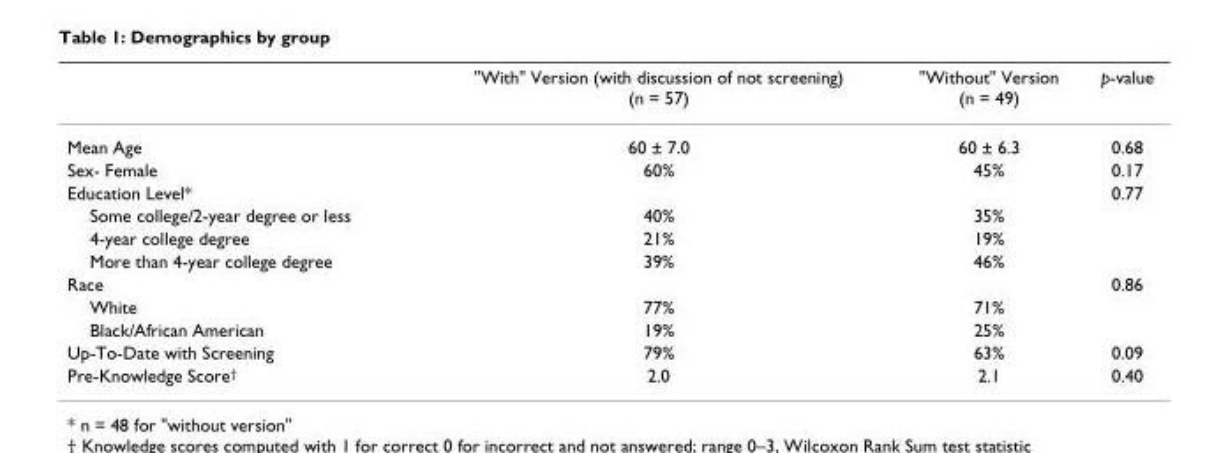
<table><thead><tr><td></td><td>&quot;With&quot; Version (with discussion of not screening) (n = 57)</td><td>&quot;Without&quot; Version (n = 49)</td><td>p-value</td></tr></thead><tbody><tr><td>Mean Age</td><td>60 ± 7.0</td><td>60 ± 6.3</td><td>0.68</td></tr><tr><td>Sex- Female</td><td>60%</td><td>45%</td><td>0.17</td></tr><tr><td>Education Level*</td><td></td><td></td><td>0.77</td></tr><tr><td>Some college/2-year degree or less</td><td>40%</td><td>35%</td><td></td></tr><tr><td>4-year college degree</td><td>21%</td><td>19%</td><td></td></tr><tr><td>More than 4-year college degree</td><td>39%</td><td>46%</td><td></td></tr><tr><td>Race</td><td></td><td></td><td>0.86</td></tr><tr><td>White</td><td>77%</td><td>71%</td><td></td></tr><tr><td>Black/African American</td><td>19%</td><td>25%</td><td></td></tr><tr><td>Up-To-Date with Screening</td><td>79%</td><td>63%</td><td>0.09</td></tr><tr><td>Pre-Knowledge Score<sup>†</sup></td><td>2.0</td><td>2.1</td><td>0.40</td></tr></tbody></table>